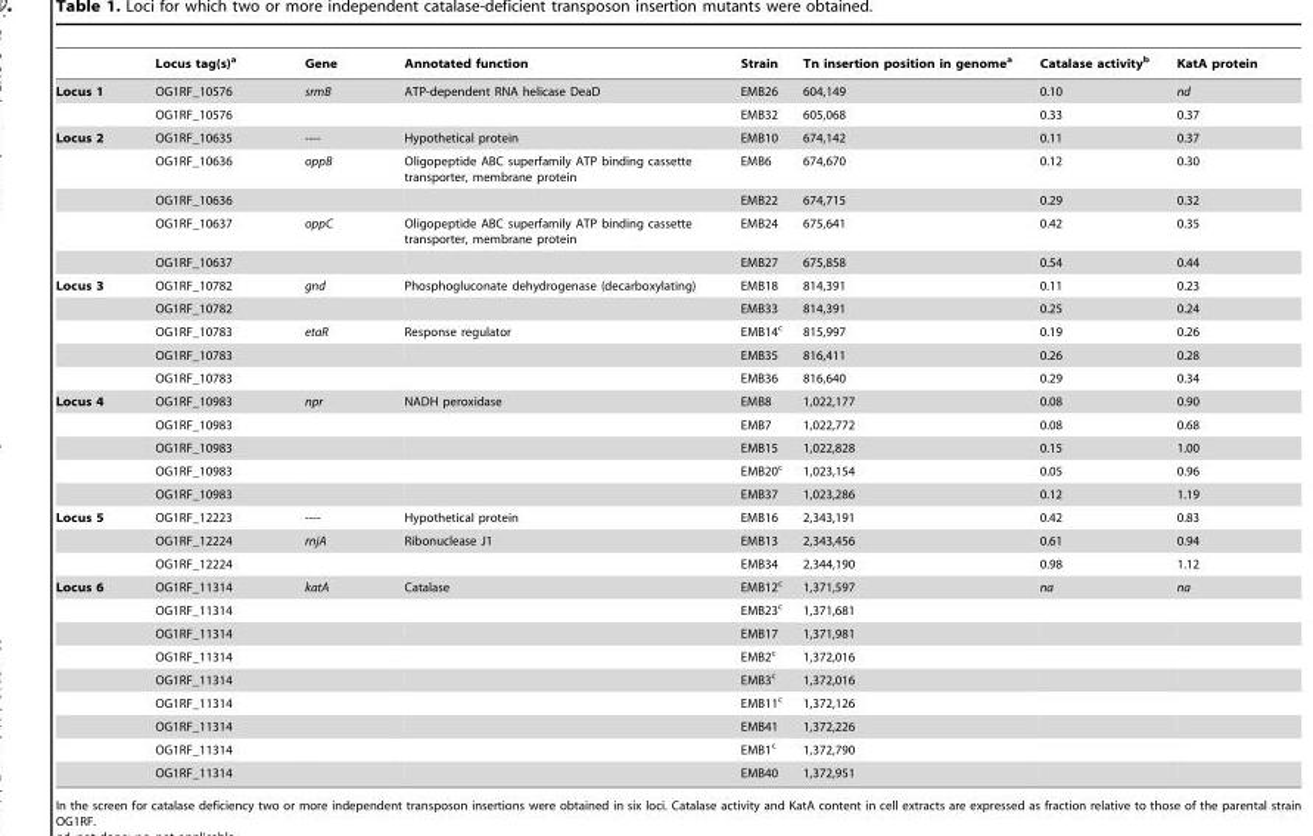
<table><thead><tr><td></td><td>Locus tag(s)<sup>a</sup></td><td>Gene</td><td>Annotated function</td><td>Strain</td><td>Tn insertion position in genome<sup>a</sup></td><td>Catalase activity<sup>b</sup></td><td>KatA protein</td></tr></thead><tbody><tr><td rowspan="2">Locus 1</td><td>OG1RF_10576</td><td>srmB</td><td>ATP-dependent RNA helicase DeaD</td><td>EMB26</td><td>604,149</td><td>0.10</td><td>nd</td></tr><tr><td>OG1RF_10576</td><td></td><td></td><td>EMB32</td><td>605,068</td><td>0.33</td><td>0.37</td></tr><tr><td rowspan="5">Locus 2</td><td>OG1RF_10635</td><td>----</td><td>Hypothetical protein</td><td>EMB10</td><td>674,142</td><td>0.11</td><td>0.37</td></tr><tr><td>OG1RF_10636</td><td>oppB</td><td>Oligopeptide ABC superfamily ATP binding cassette transporter, membrane protein</td><td>EMB6</td><td>674,670</td><td>0.12</td><td>0.30</td></tr><tr><td>OG1RF_10636</td><td></td><td></td><td>EMB22</td><td>674,715</td><td>0.29</td><td>0.32</td></tr><tr><td>OG1RF_10637</td><td>oppC</td><td>Oligopeptide ABC superfamily ATP binding cassette transporter, membrane protein</td><td>EMB24</td><td>675,641</td><td>0.42</td><td>0.35</td></tr><tr><td>OG1RF_10637</td><td></td><td></td><td>EMB27</td><td>675,858</td><td>0.54</td><td>0.44</td></tr><tr><td rowspan="5">Locus 3</td><td>OG1RF_10782</td><td>gnd</td><td>Phosphogluconate dehydrogenase (decarboxylating)</td><td>EMB18</td><td>814,391</td><td>0.11</td><td>0.23</td></tr><tr><td>OG1RF_10782</td><td></td><td></td><td>EMB33</td><td>814,391</td><td>0.25</td><td>0.24</td></tr><tr><td>OG1RF_10783</td><td>etaR</td><td>Response regulator</td><td>EMB14<sup>c</sup></td><td>815,997</td><td>0.19</td><td>0.26</td></tr><tr><td>OG1RF_10783</td><td></td><td></td><td>EMB35</td><td>816,411</td><td>0.26</td><td>0.28</td></tr><tr><td>OG1RF_10783</td><td></td><td></td><td>EMB36</td><td>816,640</td><td>0.29</td><td>0.34</td></tr><tr><td rowspan="5">Locus 4</td><td>OG1RF_10983</td><td>npr</td><td>NADH peroxidase</td><td>EMB8</td><td>1,022,177</td><td>0.08</td><td>0.90</td></tr><tr><td>OG1RF_10983</td><td></td><td></td><td>EMB7</td><td>1,022,772</td><td>0.08</td><td>0.68</td></tr><tr><td>OG1RF_10983</td><td></td><td></td><td>EMB15</td><td>1,022,828</td><td>0.15</td><td>1.00</td></tr><tr><td>OG1RF_10983</td><td></td><td></td><td>EMB20<sup>c</sup></td><td>1,023,154</td><td>0.05</td><td>0.96</td></tr><tr><td>OG1RF_10983</td><td></td><td></td><td>EMB37</td><td>1,023,286</td><td>0.12</td><td>1.19</td></tr><tr><td rowspan="3">Locus 5</td><td>OG1RF_12223</td><td>----</td><td>Hypothetical protein</td><td>EMB16</td><td>2,343,191</td><td>0.42</td><td>0.83</td></tr><tr><td>OG1RF_12224</td><td>rnjA</td><td>Ribonuclease J1</td><td>EMB13</td><td>2,343,456</td><td>0.61</td><td>0.94</td></tr><tr><td>OG1RF_12224</td><td></td><td></td><td>EMB34</td><td>2,344,190</td><td>0.98</td><td>1.12</td></tr><tr><td rowspan="9">Locus 6</td><td>OG1RF_11314</td><td>katA</td><td>Catalase</td><td>EMB12<sup>c</sup></td><td>1,371,597</td><td>na</td><td>na</td></tr><tr><td>OG1RF_11314</td><td></td><td></td><td>EMB23<sup>c</sup></td><td>1,371,681</td><td></td><td></td></tr><tr><td>OG1RF_11314</td><td></td><td></td><td>EMB17</td><td>1,371,981</td><td></td><td></td></tr><tr><td>OG1RF_11314</td><td></td><td></td><td>EMB2<sup>c</sup></td><td>1,372,016</td><td></td><td></td></tr><tr><td>OG1RF_11314</td><td></td><td></td><td>EMB3<sup>c</sup></td><td>1,372,016</td><td></td><td></td></tr><tr><td>OG1RF_11314</td><td></td><td></td><td>EMB11<sup>c</sup></td><td>1,372,126</td><td></td><td></td></tr><tr><td>OG1RF_11314</td><td></td><td></td><td>EMB41</td><td>1,372,226</td><td></td><td></td></tr><tr><td>OG1RF_11314</td><td></td><td></td><td>EMB1<sup>c</sup></td><td>1,372,790</td><td></td><td></td></tr><tr><td>OG1RF_11314</td><td></td><td></td><td>EMB40</td><td>1,372,951</td><td></td><td></td></tr></tbody></table>